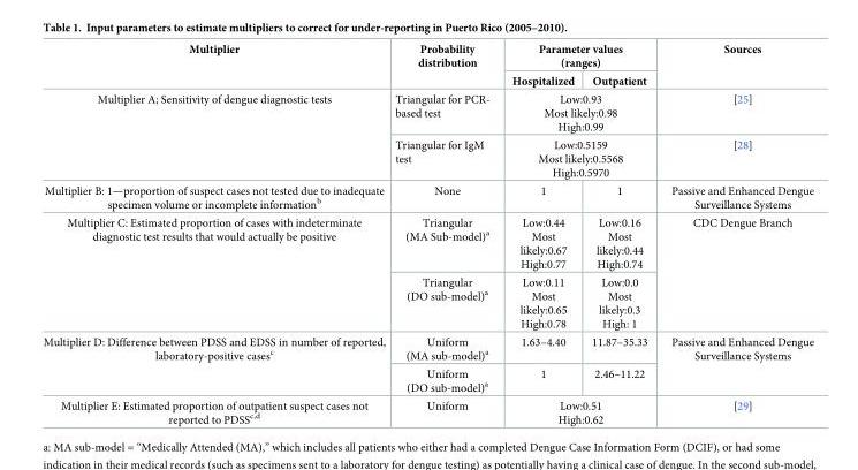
<table><thead><tr><td rowspan="2">Multiplier</td><td rowspan="2">Probability distribution</td><td colspan="2">Parameter values (ranges)</td><td rowspan="2">Sources</td></tr><tr><td>Hospitalized</td><td>Outpatient</td></tr></thead><tbody><tr><td rowspan="2">Multiplier A; Sensitivity of dengue diagnostic tests</td><td>Triangular for PCR- based test</td><td colspan="2">Low:0.93 Most likely:0.98 High:0.99</td><td>[25]</td></tr><tr><td>Triangular for IgM test</td><td colspan="2">Low:0.5159 Most likely:0.5568 High:0.5970</td><td>[28]</td></tr><tr><td>Multiplier B: 1—proportion of suspect cases not tested due to inadequate specimen volume or incomplete information<sup>b</sup></td><td>None</td><td>1</td><td>1</td><td>Passive and Enhanced Dengue Surveillance Systems</td></tr><tr><td rowspan="2">Multiplier C: Estimated proportion of cases with indeterminate diagnostic test results that would actually be positive</td><td>Triangular (MA Sub-model)<sup>a</sup></td><td>Low:0.44 Most likely:0.67 High:0.77</td><td>Low:0.16 Most likely:0.44 High:0.74</td><td rowspan="2">CDC Dengue Branch</td></tr><tr><td>Triangular (DO sub-model)<sup>a</sup></td><td>Low:0.11 Most likely:0.65 High:0.78</td><td>Low:0.0 Most likely:0.3 High: 1</td></tr><tr><td rowspan="2">Multiplier D: Difference between PDSS and EDSS in number of reported, laboratory-positive cases<sup>c</sup></td><td>Uniform (MA sub-model)<sup>a</sup></td><td>1.63–4.40</td><td>11.87–35.33</td><td rowspan="2">Passive and Enhanced Dengue Surveillance Systems</td></tr><tr><td>Uniform (DO sub-model)<sup>a</sup></td><td>1</td><td>2.46–11.22</td></tr><tr><td>Multiplier E: Estimated proportion of outpatient suspect cases not reported to PDSS<sup>c,d</sup></td><td>Uniform</td><td colspan="2">Low:0.51 High:0.62</td><td>[29]</td></tr></tbody></table>